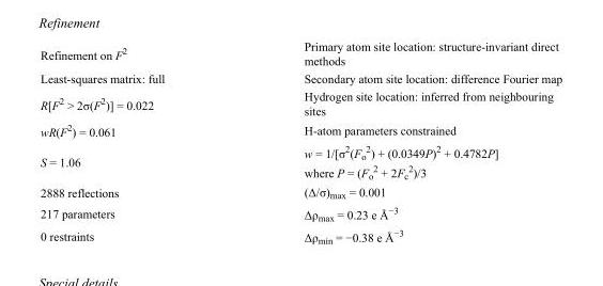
<table><tbody><tr><td>Refinement on F<sup>2</sup></td><td>Primary atom site location: structure-invariant direct methods</td></tr><tr><td>Least-squares matrix: full</td><td>Secondary atom site location: difference Fourier map</td></tr><tr><td>R[F<sup>2</sup> &gt; 2σ(F<sup>2</sup>)] = 0.022</td><td>Hydrogen site location: inferred from neighbouring sites</td></tr><tr><td>wR(F<sup>2</sup>) = 0.061</td><td>H-atom parameters constrained</td></tr><tr><td>S = 1.06</td><td>w = 1/[σ<sup>2</sup>(F<sub>o</sub> <sup>2</sup>) + (0.0349P)<sup>2</sup> + 0.4782P] where P = (F<sub>o</sub> <sup>2</sup> + 2F<sub>c</sub> <sup>2</sup>)/3</td></tr><tr><td>2888 reflections</td><td>(Δ/σ)<sub>max</sub> = 0.001</td></tr><tr><td>217 parameters</td><td>Δρ<sub>max</sub> = 0.23 e Å<sup>−3</sup></td></tr><tr><td>0 restraints</td><td>Δρ<sub>min</sub> = −0.38 e Å<sup>−3</sup></td></tr></tbody></table>